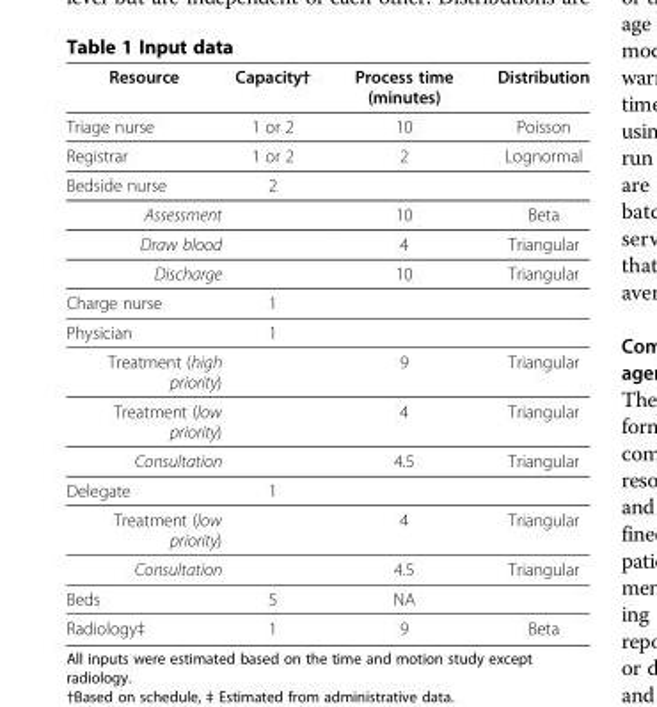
<table><thead><tr><td>Resource</td><td>Capacity†</td><td>Process time (minutes)</td><td>Distribution</td></tr></thead><tbody><tr><td>Triage nurse</td><td>1 or 2</td><td>10</td><td>Poisson</td></tr><tr><td>Registrar</td><td>1 or 2</td><td>2</td><td>Lognormal</td></tr><tr><td>Bedside nurse</td><td>2</td><td></td><td></td></tr><tr><td>Assessment</td><td></td><td>10</td><td>Beta</td></tr><tr><td>Draw blood</td><td></td><td>4</td><td>Triangular</td></tr><tr><td>Discharge</td><td></td><td>10</td><td>Triangular</td></tr><tr><td>Charge nurse</td><td>1</td><td></td><td></td></tr><tr><td>Physician</td><td>1</td><td></td><td></td></tr><tr><td>Treatment (high priority)</td><td></td><td>9</td><td>Triangular</td></tr><tr><td>Treatment (low priority)</td><td></td><td>4</td><td>Triangular</td></tr><tr><td>Consultation</td><td></td><td>4.5</td><td>Triangular</td></tr><tr><td>Delegate</td><td>1</td><td></td><td></td></tr><tr><td>Treatment (low priority)</td><td></td><td>4</td><td>Triangular</td></tr><tr><td>Consultation</td><td></td><td>4.5</td><td>Triangular</td></tr><tr><td>Beds</td><td>5</td><td>NA</td><td></td></tr><tr><td>Radiology‡</td><td>1</td><td>9</td><td>Beta</td></tr></tbody></table>